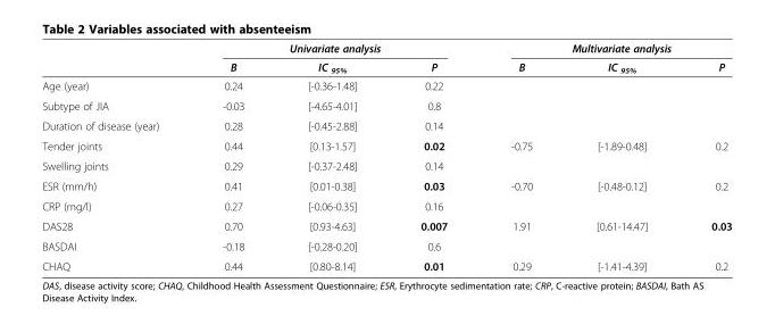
<table><thead><tr><td rowspan="2"></td><td colspan="3">Univariate analysis</td><td colspan="3">Multivariate analysis</td></tr><tr><td>B</td><td>IC <sub>95%</sub></td><td>P</td><td>B</td><td>IC <sub>95%</sub></td><td>P</td></tr></thead><tbody><tr><td>Age (year)</td><td>0.24</td><td>[-0.36-1.48]</td><td>0.22</td><td></td><td></td><td></td></tr><tr><td>Subtype of JIA</td><td>-0.03</td><td>[-4.65-4.01]</td><td>0.8</td><td></td><td></td><td></td></tr><tr><td>Duration of disease (year)</td><td>0.28</td><td>[-0.45-2.88]</td><td>0.14</td><td></td><td></td><td></td></tr><tr><td>Tender joints</td><td>0.44</td><td>[0.13-1.57]</td><td>0.02</td><td>-0.75</td><td>[-1.89-0.48]</td><td>0.2</td></tr><tr><td>Swelling joints</td><td>0.29</td><td>[-0.37-2.48]</td><td>0.14</td><td></td><td></td><td></td></tr><tr><td>ESR (mm/h)</td><td>0.41</td><td>[0.01-0.38]</td><td>0.03</td><td>-0.70</td><td>[-0.48-0.12]</td><td>0.2</td></tr><tr><td>CRP (mg/l)</td><td>0.27</td><td>[-0.06-0.35]</td><td>0.16</td><td></td><td></td><td></td></tr><tr><td>DAS28</td><td>0.70</td><td>[0.93-4.63]</td><td>0.007</td><td>1.91</td><td>[0.61-14.47]</td><td>0.03</td></tr><tr><td>BASDAI</td><td>-0.18</td><td>[-0.28-0.20]</td><td>0.6</td><td></td><td></td><td></td></tr><tr><td>CHAQ</td><td>0.44</td><td>[0.80-8.14]</td><td>0.01</td><td>0.29</td><td>[-1.41-4.39]</td><td>0.2</td></tr></tbody></table>